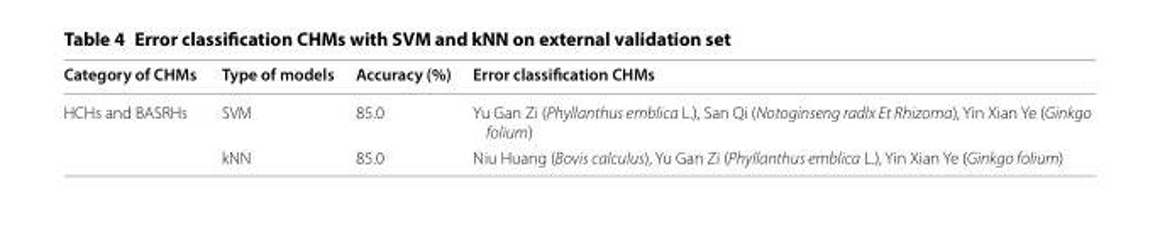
<table><thead><tr><td>Category of CHMs</td><td>Type of models</td><td>Accuracy (%)</td><td>Error classification CHMs</td></tr></thead><tbody><tr><td rowspan="2">HCHs and BASRHs</td><td>SVM</td><td>85.0</td><td>Yu Gan Zi (Phyllanthus emblica L.), San Qi (Notoginseng radlx Et Rhizoma), Yin Xian Ye (Ginkgo folium)</td></tr><tr><td>kNN</td><td>85.0</td><td>Niu Huang (Bovis calculus), Yu Gan Zi (Phyllanthus emblica L.), Yin Xian Ye (Ginkgo folium)</td></tr></tbody></table>